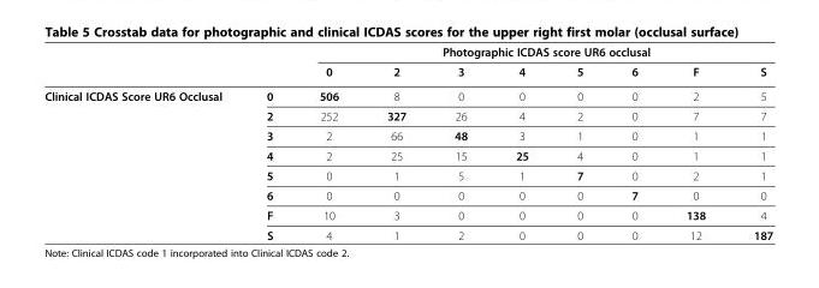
<table><thead><tr><td rowspan="2"></td><td rowspan="2"></td><td colspan="8">Photographic ICDAS score UR6 occlusal</td></tr><tr><td>0</td><td>2</td><td>3</td><td>4</td><td>5</td><td>6</td><td>F</td><td>S</td></tr></thead><tbody><tr><td rowspan="8">Clinical ICDAS Score UR6 Occlusal</td><td>0</td><td>506</td><td>8</td><td>0</td><td>0</td><td>0</td><td>0</td><td>2</td><td>5</td></tr><tr><td>2</td><td>252</td><td>327</td><td>26</td><td>4</td><td>2</td><td>0</td><td>7</td><td>7</td></tr><tr><td>3</td><td>2</td><td>66</td><td>48</td><td>3</td><td>1</td><td>0</td><td>1</td><td>1</td></tr><tr><td>4</td><td>2</td><td>25</td><td>15</td><td>25</td><td>4</td><td>0</td><td>1</td><td>1</td></tr><tr><td>5</td><td>0</td><td>1</td><td>5</td><td>1</td><td>7</td><td>0</td><td>2</td><td>1</td></tr><tr><td>6</td><td>0</td><td>0</td><td>0</td><td>0</td><td>0</td><td>7</td><td>0</td><td>0</td></tr><tr><td>F</td><td>10</td><td>3</td><td>0</td><td>0</td><td>0</td><td>0</td><td>138</td><td>4</td></tr><tr><td>S</td><td>4</td><td>1</td><td>2</td><td>0</td><td>0</td><td>0</td><td>12</td><td>187</td></tr></tbody></table>